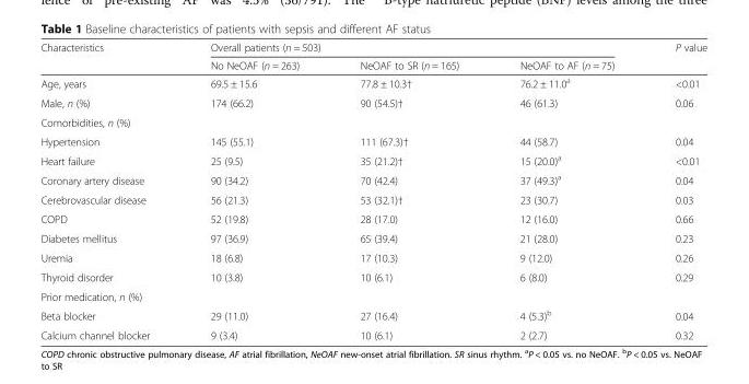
<table><thead><tr><td rowspan="2">Characteristics</td><td colspan="3">Overall patients (n = 503)</td><td rowspan="2">P value</td></tr><tr><td>No NeOAF (n = 263)</td><td>NeOAF to SR (n = 165)</td><td>NeOAF to AF (n = 75)</td></tr></thead><tbody><tr><td>Age, years</td><td>69.5 ± 15.6</td><td>77.8 ± 10.3†</td><td>76.2 ± 11.0<sup>a</sup></td><td>&lt;0.01</td></tr><tr><td>Male, n (%)</td><td>174 (66.2)</td><td>90 (54.5)†</td><td>46 (61.3)</td><td>0.06</td></tr><tr><td colspan="5">Comorbidities, n (%)</td></tr><tr><td>Hypertension</td><td>145 (55.1)</td><td>111 (67.3)†</td><td>44 (58.7)</td><td>0.04</td></tr><tr><td>Heart failure</td><td>25 (9.5)</td><td>35 (21.2)†</td><td>15 (20.0)<sup>a</sup></td><td>&lt;0.01</td></tr><tr><td>Coronary artery disease</td><td>90 (34.2)</td><td>70 (42.4)</td><td>37 (49.3)<sup>a</sup></td><td>0.04</td></tr><tr><td>Cerebrovascular disease</td><td>56 (21.3)</td><td>53 (32.1)†</td><td>23 (30.7)</td><td>0.03</td></tr><tr><td>COPD</td><td>52 (19.8)</td><td>28 (17.0)</td><td>12 (16.0)</td><td>0.66</td></tr><tr><td>Diabetes mellitus</td><td>97 (36.9)</td><td>65 (39.4)</td><td>21 (28.0)</td><td>0.23</td></tr><tr><td>Uremia</td><td>18 (6.8)</td><td>17 (10.3)</td><td>9 (12.0)</td><td>0.26</td></tr><tr><td>Thyroid disorder</td><td>10 (3.8)</td><td>10 (6.1)</td><td>6 (8.0)</td><td>0.29</td></tr><tr><td colspan="5">Prior medication, n (%)</td></tr><tr><td>Beta blocker</td><td>29 (11.0)</td><td>27 (16.4)</td><td>4 (5.3)<sup>b</sup></td><td>0.04</td></tr><tr><td>Calcium channel blocker</td><td>9 (3.4)</td><td>10 (6.1)</td><td>2 (2.7)</td><td>0.32</td></tr></tbody></table>